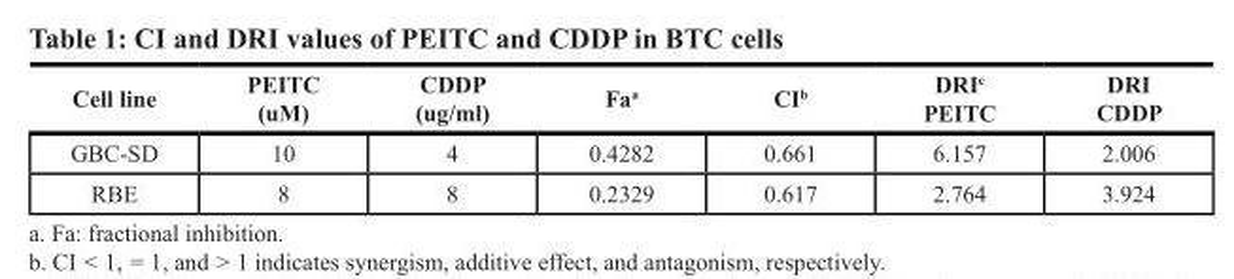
<table><thead><tr><td>Cell line</td><td>PEITC (uM)</td><td>CDDP (ug/ml)</td><td>Fa<sup>a</sup></td><td>CI<sup>b</sup></td><td>DRI<sup>c</sup> PEITC</td><td>DRI CDDP</td></tr></thead><tbody><tr><td>GBC-SD</td><td>10</td><td>4</td><td>0.4282</td><td>0.661</td><td>6.157</td><td>2.006</td></tr><tr><td>RBE</td><td>8</td><td>8</td><td>0.2329</td><td>0.617</td><td>2.764</td><td>3.924</td></tr></tbody></table>